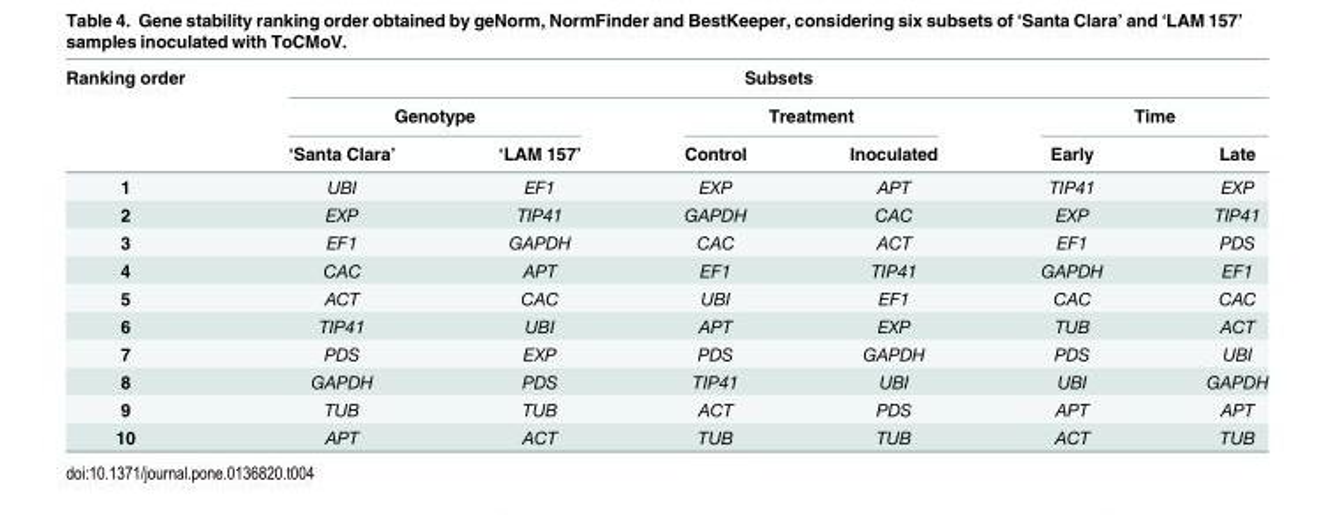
<table><thead><tr><td rowspan="3">Ranking order</td><td colspan="6">Subsets</td></tr><tr><td colspan="2">Genotype</td><td colspan="2">Treatment</td><td colspan="2">Time</td></tr><tr><td>‘Santa Clara’</td><td>‘LAM 157’</td><td>Control</td><td>Inoculated</td><td>Early</td><td>Late</td></tr></thead><tbody><tr><td>1</td><td>UBI</td><td>EF1</td><td>EXP</td><td>APT</td><td>TIP41</td><td>EXP</td></tr><tr><td>2</td><td>EXP</td><td>TIP41</td><td>GAPDH</td><td>CAC</td><td>EXP</td><td>TIP41</td></tr><tr><td>3</td><td>EF1</td><td>GAPDH</td><td>CAC</td><td>ACT</td><td>EF1</td><td>PDS</td></tr><tr><td>4</td><td>CAC</td><td>APT</td><td>EF1</td><td>TIP41</td><td>GAPDH</td><td>EF1</td></tr><tr><td>5</td><td>ACT</td><td>CAC</td><td>UBI</td><td>EF1</td><td>CAC</td><td>CAC</td></tr><tr><td>6</td><td>TIP41</td><td>UBI</td><td>APT</td><td>EXP</td><td>TUB</td><td>ACT</td></tr><tr><td>7</td><td>PDS</td><td>EXP</td><td>PDS</td><td>GAPDH</td><td>PDS</td><td>UBI</td></tr><tr><td>8</td><td>GAPDH</td><td>PDS</td><td>TIP41</td><td>UBI</td><td>UBI</td><td>GAPDH</td></tr><tr><td>9</td><td>TUB</td><td>TUB</td><td>ACT</td><td>PDS</td><td>APT</td><td>APT</td></tr><tr><td>10</td><td>APT</td><td>ACT</td><td>TUB</td><td>TUB</td><td>ACT</td><td>TUB</td></tr></tbody></table>